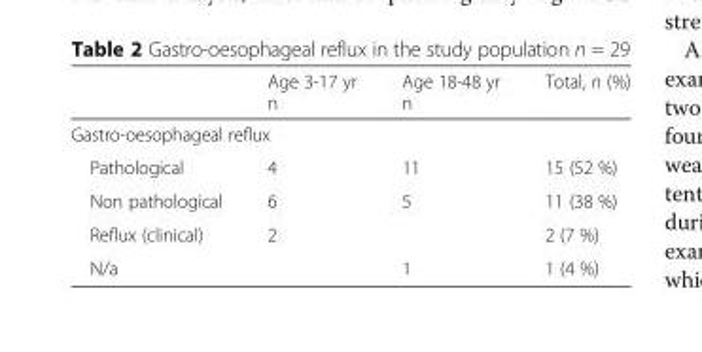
<table><thead><tr><td></td><td>Age 3-17 yr n</td><td>Age 18-48 yr n</td><td>Total, n (%)</td></tr></thead><tbody><tr><td colspan="4">Gastro-oesophageal reflux</td></tr><tr><td>Pathological</td><td>4</td><td>11</td><td>15 (52 %)</td></tr><tr><td>Non pathological</td><td>6</td><td>5</td><td>11 (38 %)</td></tr><tr><td>Reflux (clinical)</td><td>2</td><td></td><td>2 (7 %)</td></tr><tr><td>N/a</td><td></td><td>1</td><td>1 (4 %)</td></tr></tbody></table>